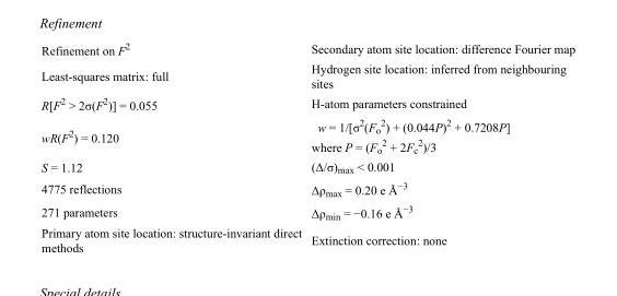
<table><tbody><tr><td>Refinement on F<sup>2</sup></td><td>Secondary atom site location: difference Fourier map</td></tr><tr><td>Least-squares matrix: full</td><td>Hydrogen site location: inferred from neighbouring sites</td></tr><tr><td>R[F<sup>2</sup> &gt; 2σ(F<sup>2</sup>)] = 0.055</td><td>H-atom parameters constrained</td></tr><tr><td>wR(F<sup>2</sup>) = 0.120</td><td>w = 1/[σ<sup>2</sup>(F<sub>o</sub> <sup>2</sup>) + (0.044P)<sup>2</sup> + 0.7208P] where P = (F<sub>o</sub> <sup>2</sup> + 2F<sub>c</sub> <sup>2</sup>)/3</td></tr><tr><td>S = 1.12</td><td>(Δ/σ)<sub>max</sub> &lt; 0.001</td></tr><tr><td>4775 reflections</td><td>Δρ<sub>max</sub> = 0.20 e Å<sup>−3</sup></td></tr><tr><td>271 parameters</td><td>Δρ<sub>min</sub> = −0.16 e Å<sup>−3</sup></td></tr><tr><td>Primary atom site location: structure-invariant direct methods</td><td>Extinction correction: none</td></tr></tbody></table>